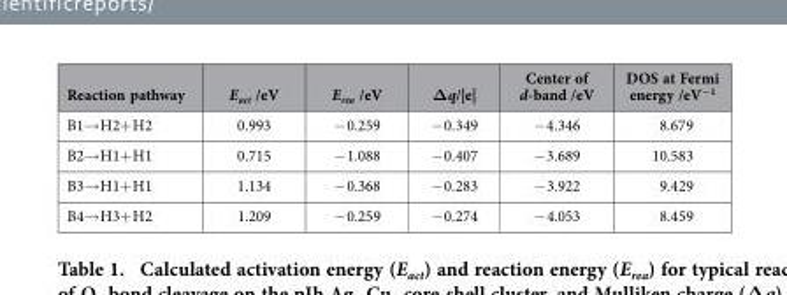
<table><thead><tr><td>Reaction pathway</td><td>E<sub>act</sub> /eV</td><td>E<sub>rea</sub> /eV</td><td>Δq/|e|</td><td>Center of d-band /eV</td><td>DOS at Fermi energy /eV<sup>−1</sup></td></tr></thead><tbody><tr><td>B1→ H2+ H2</td><td>0.993</td><td>− 0.259</td><td>− 0.349</td><td>− 4.346</td><td>8.679</td></tr><tr><td>B2→ H1+ H1</td><td>0.715</td><td>− 1.088</td><td>− 0.407</td><td>− 3.689</td><td>10.583</td></tr><tr><td>B3→ H1+ H1</td><td>1.134</td><td>− 0.368</td><td>− 0.283</td><td>− 3.922</td><td>9.429</td></tr><tr><td>B4→ H3+ H2</td><td>1.209</td><td>− 0.259</td><td>− 0.274</td><td>− 4.053</td><td>8.459</td></tr></tbody></table>